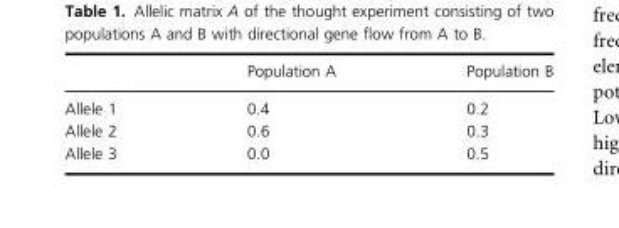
<table><thead><tr><td></td><td>Population A</td><td>Population B</td></tr></thead><tbody><tr><td>Allele 1</td><td>0.4</td><td>0.2</td></tr><tr><td>Allele 2</td><td>0.6</td><td>0.3</td></tr><tr><td>Allele 3</td><td>0.0</td><td>0.5</td></tr></tbody></table>